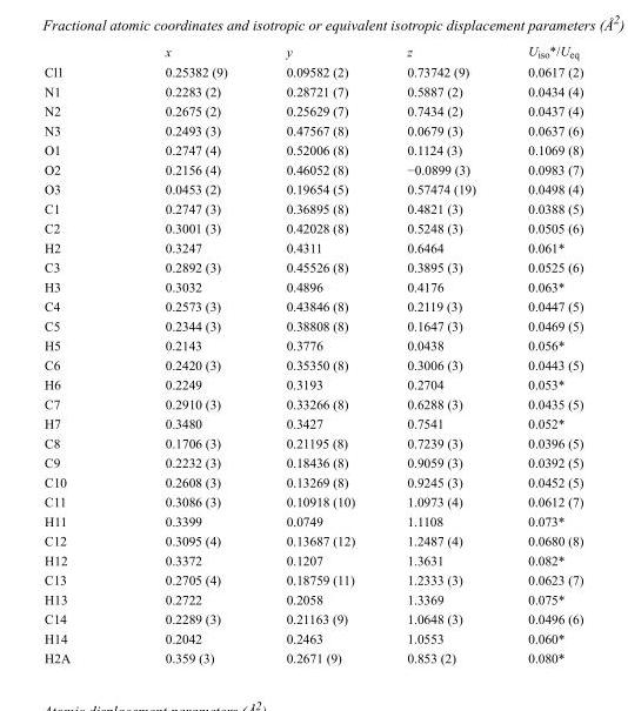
<table><thead><tr><td></td><td>x</td><td>y</td><td>z</td><td>U<sub>iso</sub>*/U<sub>eq</sub></td></tr></thead><tbody><tr><td>Cl1</td><td>0.25382 (9)</td><td>0.09582 (2)</td><td>0.73742 (9)</td><td>0.0617 (2)</td></tr><tr><td>N1</td><td>0.2283 (2)</td><td>0.28721 (7)</td><td>0.5887 (2)</td><td>0.0434 (4)</td></tr><tr><td>N2</td><td>0.2675 (2)</td><td>0.25629 (7)</td><td>0.7434 (2)</td><td>0.0437 (4)</td></tr><tr><td>N3</td><td>0.2493 (3)</td><td>0.47567 (8)</td><td>0.0679 (3)</td><td>0.0637 (6)</td></tr><tr><td>O1</td><td>0.2747 (4)</td><td>0.52006 (8)</td><td>0.1124 (3)</td><td>0.1069 (8)</td></tr><tr><td>O2</td><td>0.2156 (4)</td><td>0.46052 (8)</td><td>−0.0899 (3)</td><td>0.0983 (7)</td></tr><tr><td>O3</td><td>0.0453 (2)</td><td>0.19654 (5)</td><td>0.57474 (19)</td><td>0.0498 (4)</td></tr><tr><td>C1</td><td>0.2747 (3)</td><td>0.36895 (8)</td><td>0.4821 (3)</td><td>0.0388 (5)</td></tr><tr><td>C2</td><td>0.3001 (3)</td><td>0.42028 (8)</td><td>0.5248 (3)</td><td>0.0505 (6)</td></tr><tr><td>H2</td><td>0.3247</td><td>0.4311</td><td>0.6464</td><td>0.061*</td></tr><tr><td>C3</td><td>0.2892 (3)</td><td>0.45526 (8)</td><td>0.3895 (3)</td><td>0.0525 (6)</td></tr><tr><td>H3</td><td>0.3032</td><td>0.4896</td><td>0.4176</td><td>0.063*</td></tr><tr><td>C4</td><td>0.2573 (3)</td><td>0.43846 (8)</td><td>0.2119 (3)</td><td>0.0447 (5)</td></tr><tr><td>C5</td><td>0.2344 (3)</td><td>0.38808 (8)</td><td>0.1647 (3)</td><td>0.0469 (5)</td></tr><tr><td>H5</td><td>0.2143</td><td>0.3776</td><td>0.0438</td><td>0.056*</td></tr><tr><td>C6</td><td>0.2420 (3)</td><td>0.35350 (8)</td><td>0.3006 (3)</td><td>0.0443 (5)</td></tr><tr><td>H6</td><td>0.2249</td><td>0.3193</td><td>0.2704</td><td>0.053*</td></tr><tr><td>C7</td><td>0.2910 (3)</td><td>0.33266 (8)</td><td>0.6288 (3)</td><td>0.0435 (5)</td></tr><tr><td>H7</td><td>0.3480</td><td>0.3427</td><td>0.7541</td><td>0.052*</td></tr><tr><td>C8</td><td>0.1706 (3)</td><td>0.21195 (8)</td><td>0.7239 (3)</td><td>0.0396 (5)</td></tr><tr><td>C9</td><td>0.2232 (3)</td><td>0.18436 (8)</td><td>0.9059 (3)</td><td>0.0392 (5)</td></tr><tr><td>C10</td><td>0.2608 (3)</td><td>0.13269 (8)</td><td>0.9245 (3)</td><td>0.0452 (5)</td></tr><tr><td>C11</td><td>0.3086 (3)</td><td>0.10918 (10)</td><td>1.0973 (4)</td><td>0.0612 (7)</td></tr><tr><td>H11</td><td>0.3399</td><td>0.0749</td><td>1.1108</td><td>0.073*</td></tr><tr><td>C12</td><td>0.3095 (4)</td><td>0.13687 (12)</td><td>1.2487 (4)</td><td>0.0680 (8)</td></tr><tr><td>H12</td><td>0.3372</td><td>0.1207</td><td>1.3631</td><td>0.082*</td></tr><tr><td>C13</td><td>0.2705 (4)</td><td>0.18759 (11)</td><td>1.2333 (3)</td><td>0.0623 (7)</td></tr><tr><td>H13</td><td>0.2722</td><td>0.2058</td><td>1.3369</td><td>0.075*</td></tr><tr><td>C14</td><td>0.2289 (3)</td><td>0.21163 (9)</td><td>1.0648 (3)</td><td>0.0496 (6)</td></tr><tr><td>H14</td><td>0.2042</td><td>0.2463</td><td>1.0553</td><td>0.060*</td></tr><tr><td>H2A</td><td>0.359 (3)</td><td>0.2671 (9)</td><td>0.853 (2)</td><td>0.080*</td></tr></tbody></table>